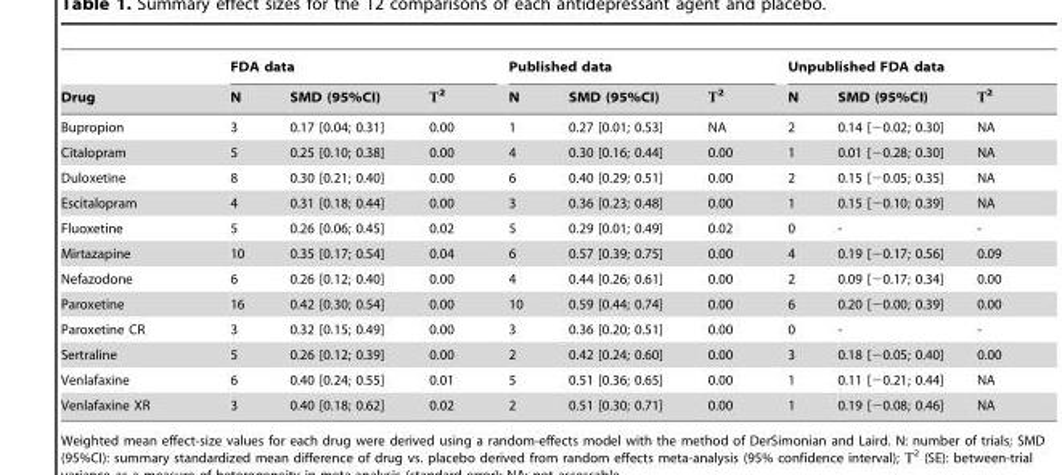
<table><thead><tr><td rowspan="2">Drug</td><td colspan="3">FDA data</td><td colspan="3">Published data</td><td colspan="3">Unpublished FDA data</td></tr><tr><td>N</td><td>SMD (95%CI)</td><td>T2</td><td>N</td><td>SMD (95%CI)</td><td>T2</td><td>N</td><td>SMD (95%CI)</td><td>T2</td></tr></thead><tbody><tr><td>Bupropion</td><td>3</td><td>0.17 [0.04; 0.31]</td><td>0.00</td><td>1</td><td>0.27 [0.01; 0.53]</td><td>NA</td><td>2</td><td>0.14 [−0.02; 0.30]</td><td>NA</td></tr><tr><td>Citalopram</td><td>5</td><td>0.25 [0.10; 0.38]</td><td>0.00</td><td>4</td><td>0.30 [0.16; 0.44]</td><td>0.00</td><td>1</td><td>0.01 [−0.28; 0.30]</td><td>NA</td></tr><tr><td>Duloxetine</td><td>8</td><td>0.30 [0.21; 0.40]</td><td>0.00</td><td>6</td><td>0.40 [0.29; 0.51]</td><td>0.00</td><td>2</td><td>0.15 [−0.05; 0.35]</td><td>NA</td></tr><tr><td>Escitalopram</td><td>4</td><td>0.31 [0.18; 0.44]</td><td>0.00</td><td>3</td><td>0.36 [0.23; 0.48]</td><td>0.00</td><td>1</td><td>0.15 [−0.10; 0.39]</td><td>NA</td></tr><tr><td>Fluoxetine</td><td>5</td><td>0.26 [0.06; 0.45]</td><td>0.02</td><td>5</td><td>0.29 [0.01; 0.49]</td><td>0.02</td><td>0</td><td>-</td><td>-</td></tr><tr><td>Mirtazapine</td><td>10</td><td>0.35 [0.17; 0.54]</td><td>0.04</td><td>6</td><td>0.57 [0.39; 0.75]</td><td>0.00</td><td>4</td><td>0.19 [−0.17; 0.56]</td><td>0.09</td></tr><tr><td>Nefazodone</td><td>6</td><td>0.26 [0.12; 0.40]</td><td>0.00</td><td>4</td><td>0.44 [0.26; 0.61]</td><td>0.00</td><td>2</td><td>0.09 [−0.17; 0.34]</td><td>0.00</td></tr><tr><td>Paroxetine</td><td>16</td><td>0.42 [0.30; 0.54]</td><td>0.00</td><td>10</td><td>0.59 [0.44; 0.74]</td><td>0.00</td><td>6</td><td>0.20 [−0.00; 0.39]</td><td>0.00</td></tr><tr><td>Paroxetine CR</td><td>3</td><td>0.32 [0.15; 0.49]</td><td>0.00</td><td>3</td><td>0.36 [0.20; 0.51]</td><td>0.00</td><td>0</td><td>-</td><td>-</td></tr><tr><td>Sertraline</td><td>5</td><td>0.26 [0.12; 0.39]</td><td>0.00</td><td>2</td><td>0.42 [0.24; 0.60]</td><td>0.00</td><td>3</td><td>0.18 [−0.05; 0.40]</td><td>0.00</td></tr><tr><td>Venlafaxine</td><td>6</td><td>0.40 [0.24; 0.55]</td><td>0.01</td><td>5</td><td>0.51 [0.36; 0.65]</td><td>0.00</td><td>1</td><td>0.11 [−0.21; 0.44]</td><td>NA</td></tr><tr><td>Venlafaxine XR</td><td>3</td><td>0.40 [0.18; 0.62]</td><td>0.02</td><td>2</td><td>0.51 [0.30; 0.71]</td><td>0.00</td><td>1</td><td>0.19 [−0.08; 0.46]</td><td>NA</td></tr></tbody></table>